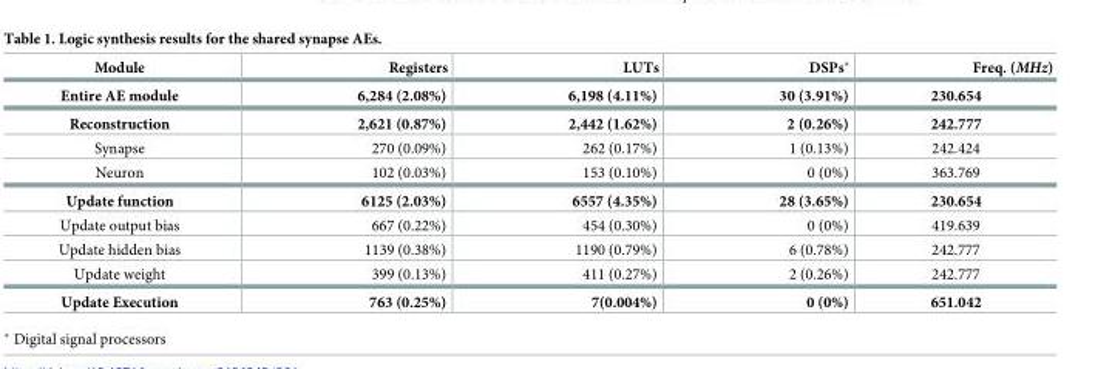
<table><thead><tr><td>Module</td><td>Registers</td><td>LUTs</td><td>DSPs*</td><td>Freq. (MHz)</td></tr></thead><tbody><tr><td>Entire AE module</td><td>6,284 (2.08%)</td><td>6,198 (4.11%)</td><td>30 (3.91%)</td><td>230.654</td></tr><tr><td>Reconstruction</td><td>2,621 (0.87%)</td><td>2,442 (1.62%)</td><td>2 (0.26%)</td><td>242.777</td></tr><tr><td>Synapse</td><td>270 (0.09%)</td><td>262 (0.17%)</td><td>1 (0.13%)</td><td>242.424</td></tr><tr><td>Neuron</td><td>102 (0.03%)</td><td>153 (0.10%)</td><td>0 (0%)</td><td>363.769</td></tr><tr><td>Update function</td><td>6125 (2.03%)</td><td>6557 (4.35%)</td><td>28 (3.65%)</td><td>230.654</td></tr><tr><td>Update output bias</td><td>667 (0.22%)</td><td>454 (0.30%)</td><td>0 (0%)</td><td>419.639</td></tr><tr><td>Update hidden bias</td><td>1139 (0.38%)</td><td>1190 (0.79%)</td><td>6 (0.78%)</td><td>242.777</td></tr><tr><td>Update weight</td><td>399 (0.13%)</td><td>411 (0.27%)</td><td>2 (0.26%)</td><td>242.777</td></tr><tr><td>Update Execution</td><td>763 (0.25%)</td><td>7(0.004%)</td><td>0 (0%)</td><td>651.042</td></tr></tbody></table>